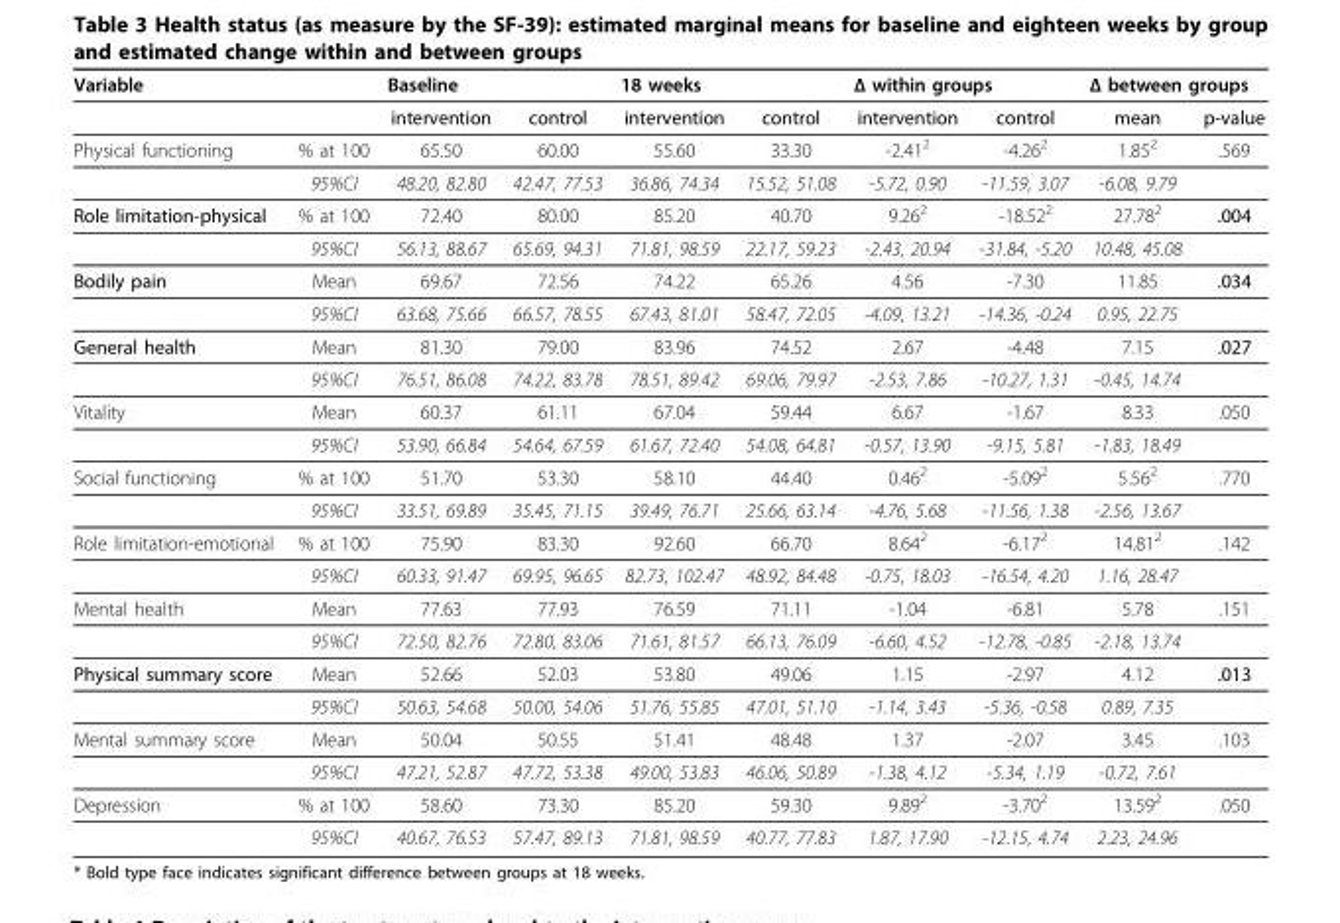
<table><thead><tr><td colspan="2">Variable</td><td colspan="2">Baseline</td><td colspan="2">18 weeks</td><td colspan="2">Δ within groups</td><td colspan="2">Δ between groups</td></tr><tr><td></td><td></td><td>intervention</td><td>control</td><td>intervention</td><td>control</td><td>intervention</td><td>control</td><td>mean</td><td>p-value</td></tr></thead><tbody><tr><td rowspan="2">Physical functioning</td><td>% at 100</td><td>65.50</td><td>60.00</td><td>55.60</td><td>33.30</td><td>-2.412</td><td>-4.262</td><td>1.852</td><td>.569</td></tr><tr><td>95%CI</td><td>48.20, 82.80</td><td>42.47, 77.53</td><td>36.86, 74.34</td><td>15.52, 51.08</td><td>-5.72, 0.90</td><td>-11.59, 3.07</td><td>-6.08, 9.79</td><td></td></tr><tr><td rowspan="2">Role limitation-physical</td><td>% at 100</td><td>72.40</td><td>80.00</td><td>85.20</td><td>40.70</td><td>9.262</td><td>-18.522</td><td>27.782</td><td>.004</td></tr><tr><td>95%CI</td><td>56.13, 88.67</td><td>65.69, 94.31</td><td>71.81, 98.59</td><td>22.17, 59.23</td><td>-2.43, 20.94</td><td>-31.84, -5.20</td><td>10.48, 45.08</td><td></td></tr><tr><td rowspan="2">Bodily pain</td><td>Mean</td><td>69.67</td><td>72.56</td><td>74.22</td><td>65.26</td><td>4.56</td><td>-7.30</td><td>11.85</td><td>.034</td></tr><tr><td>95%CI</td><td>63.68, 75.66</td><td>66.57, 78.55</td><td>67.43, 81.01</td><td>58.47, 72.05</td><td>-4.09, 13.21</td><td>-14.36, -0.24</td><td>0.95, 22.75</td><td></td></tr><tr><td rowspan="2">General health</td><td>Mean</td><td>81.30</td><td>79.00</td><td>83.96</td><td>74.52</td><td>2.67</td><td>-4.48</td><td>7.15</td><td>.027</td></tr><tr><td>95%CI</td><td>76.51, 86.08</td><td>74.22, 83.78</td><td>78.51, 89.42</td><td>69.06, 79.97</td><td>-2.53, 7.86</td><td>-10.27, 1.31</td><td>-0.45, 14.74</td><td></td></tr><tr><td rowspan="2">Vitality</td><td>Mean</td><td>60.37</td><td>61.11</td><td>67.04</td><td>59.44</td><td>6.67</td><td>-1.67</td><td>8.33</td><td>.050</td></tr><tr><td>95%CI</td><td>53.90, 66.84</td><td>54.64, 67.59</td><td>61.67, 72.40</td><td>54.08, 64.81</td><td>-0.57, 13.90</td><td>-9.15, 5.81</td><td>-1.83, 18.49</td><td></td></tr><tr><td rowspan="2">Social functioning</td><td>% at 100</td><td>51.70</td><td>53.30</td><td>58.10</td><td>44.40</td><td>0.462</td><td>-5.092</td><td>5.562</td><td>.770</td></tr><tr><td>95%CI</td><td>33.51, 69.89</td><td>35.45, 71.15</td><td>39.49, 76.71</td><td>25.66, 63.14</td><td>-4.76, 5.68</td><td>-11.56, 1.38</td><td>-2.56, 13.67</td><td></td></tr><tr><td rowspan="2">Role limitation-emotional</td><td>% at 100</td><td>75.90</td><td>83.30</td><td>92.60</td><td>66.70</td><td>8.642</td><td>-6.172</td><td>14.812</td><td>.142</td></tr><tr><td>95%CI</td><td>60.33, 91.47</td><td>69.95, 96.65</td><td>82.73, 102.47</td><td>48.92, 84.48</td><td>-0.75, 18.03</td><td>-16.54, 4.20</td><td>1.16, 28.47</td><td></td></tr><tr><td rowspan="2">Mental health</td><td>Mean</td><td>77.63</td><td>77.93</td><td>76.59</td><td>71.11</td><td>-1.04</td><td>-6.81</td><td>5.78</td><td>.151</td></tr><tr><td>95%CI</td><td>72.50, 82.76</td><td>72.80, 83.06</td><td>71.61, 81.57</td><td>66.13, 76.09</td><td>-6.60, 4.52</td><td>-12.78, -0.85</td><td>-2.18, 13.74</td><td></td></tr><tr><td rowspan="2">Physical summary score</td><td>Mean</td><td>52.66</td><td>52.03</td><td>53.80</td><td>49.06</td><td>1.15</td><td>-2.97</td><td>4.12</td><td>.013</td></tr><tr><td>95%CI</td><td>50.63, 54.68</td><td>50.00, 54.06</td><td>51.76, 55.85</td><td>47.01, 51.10</td><td>-1.14, 3.43</td><td>-5.36, -0.58</td><td>0.89, 7.35</td><td></td></tr><tr><td rowspan="2">Mental summary score</td><td>Mean</td><td>50.04</td><td>50.55</td><td>51.41</td><td>48.48</td><td>1.37</td><td>-2.07</td><td>3.45</td><td>.103</td></tr><tr><td>95%CI</td><td>47.21, 52.87</td><td>47.72, 53.38</td><td>49.00, 53.83</td><td>46.06, 50.89</td><td>-1.38, 4.12</td><td>-5.34, 1.19</td><td>-0.72, 7.61</td><td></td></tr><tr><td rowspan="2">Depression</td><td>% at 100</td><td>58.60</td><td>73.30</td><td>85.20</td><td>59.30</td><td>9.892</td><td>-3.702</td><td>13.592</td><td>.050</td></tr><tr><td>95%CI</td><td>40.67, 76.53</td><td>57.47, 89.13</td><td>71.81, 98.59</td><td>40.77, 77.83</td><td>1.87, 17.90</td><td>-12.15, 4.74</td><td>2.23, 24.96</td><td></td></tr></tbody></table>